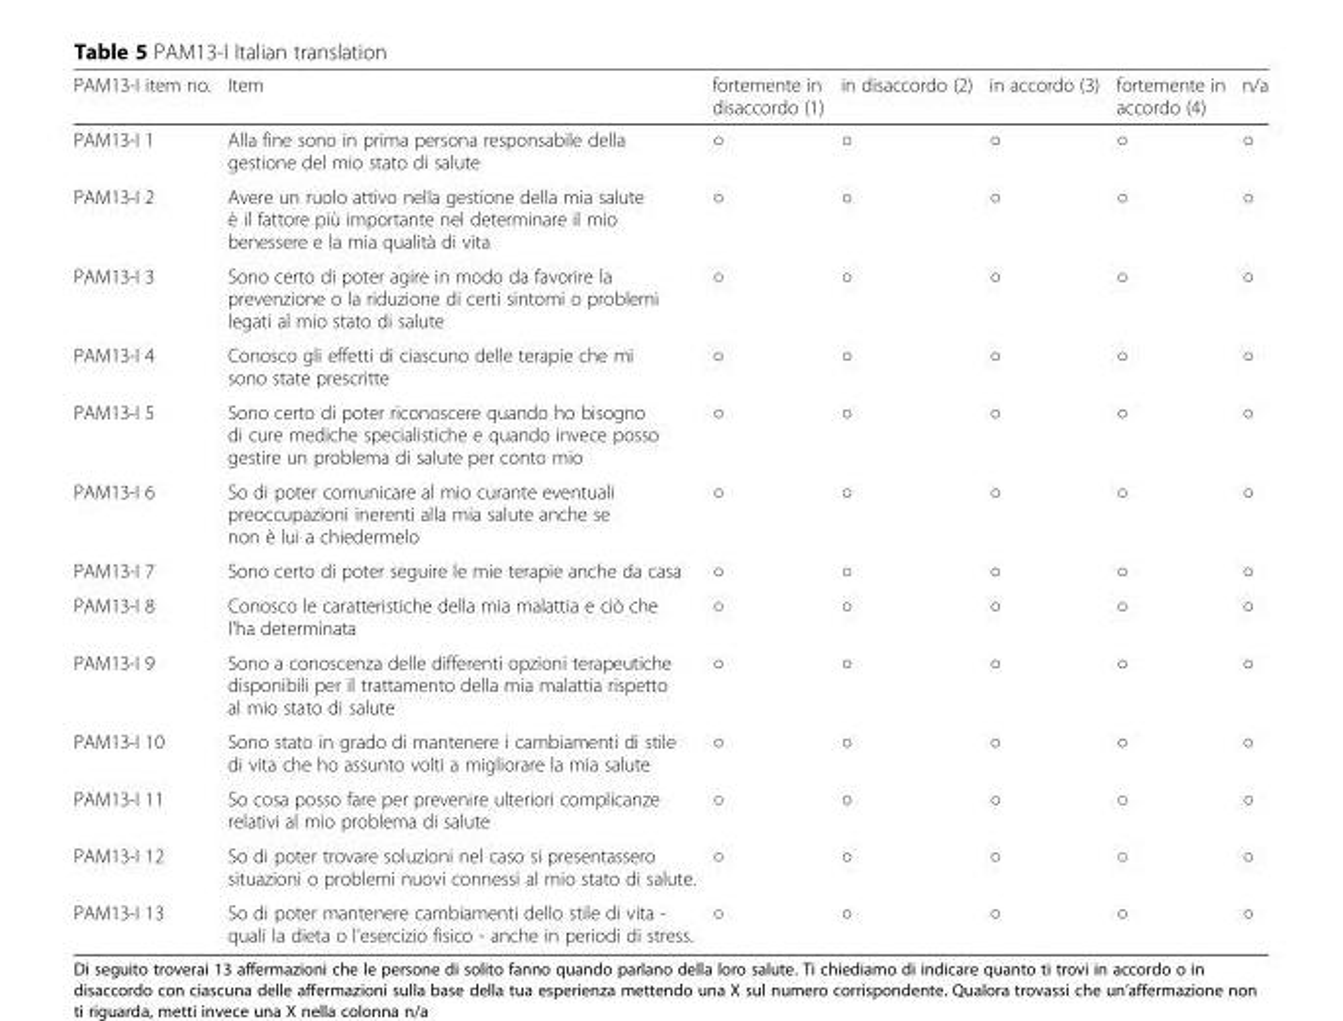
<table><thead><tr><td>PAM13-I item no.</td><td>Item</td><td>fortemente in disaccordo (1)</td><td>in disaccordo (2)</td><td>in accordo (3)</td><td>fortemente in accordo (4)</td><td>n/a</td></tr></thead><tbody><tr><td>PAM13-I 1</td><td>Alla fine sono in prima persona responsabile della gestione del mio stato di salute</td><td>○</td><td>○</td><td>○</td><td>○</td><td>○</td></tr><tr><td>PAM13-I 2</td><td>Avere un ruolo attivo nella gestione della mia salute è il fattore più importante nel determinare il mio benessere e la mia qualità di vita</td><td>○</td><td>○</td><td>○</td><td>○</td><td>○</td></tr><tr><td>PAM13-I 3</td><td>Sono certo di poter agire in modo da favorire la prevenzione o la riduzione di certi sintomi o problemi legati al mio stato di salute</td><td>○</td><td>○</td><td>○</td><td>○</td><td>○</td></tr><tr><td>PAM13-I 4</td><td>Conosco gli effetti di ciascuno delle terapie che mi sono state prescritte</td><td>○</td><td>○</td><td>○</td><td>○</td><td>○</td></tr><tr><td>PAM13-I 5</td><td>Sono certo di poter riconoscere quando ho bisogno di cure mediche specialistiche e quando invece posso gestire un problema di salute per conto mio</td><td>○</td><td>○</td><td>○</td><td>○</td><td>○</td></tr><tr><td>PAM13-I 6</td><td>So di poter comunicare al mio curante eventuali preoccupazioni inerenti alla mia salute anche se non è lui a chiedermelo</td><td>○</td><td>○</td><td>○</td><td>○</td><td>○</td></tr><tr><td>PAM13-I 7</td><td>Sono certo di poter seguire le mie terapie anche da casa</td><td>○</td><td>○</td><td>○</td><td>○</td><td>○</td></tr><tr><td>PAM13-I 8</td><td>Conosco le caratteristiche della mia malattia e ciò che l’ha determinata</td><td>○</td><td>○</td><td>○</td><td>○</td><td>○</td></tr><tr><td>PAM13-I 9</td><td>Sono a conoscenza delle differenti opzioni terapeutiche disponibili per il trattamento della mia malattia rispetto al mio stato di salute</td><td>○</td><td>○</td><td>○</td><td>○</td><td>○</td></tr><tr><td>PAM13-I 10</td><td>Sono stato in grado di mantenere i cambiamenti di stile di vita che ho assunto volti a migliorare la mia salute</td><td>○</td><td>○</td><td>○</td><td>○</td><td>○</td></tr><tr><td>PAM13-I 11</td><td>So cosa posso fare per prevenire ulteriori complicanze relativi al mio problema di salute</td><td>○</td><td>○</td><td>○</td><td>○</td><td>○</td></tr><tr><td>PAM13-I 12</td><td>So di poter trovare soluzioni nel caso si presentassero situazioni o problemi nuovi connessi al mio stato di salute.</td><td>○</td><td>○</td><td>○</td><td>○</td><td>○</td></tr><tr><td>PAM13-I 13</td><td>So di poter mantenere cambiamenti dello stile di vita - quali la dieta o l’esercizio fisico - anche in periodi di stress.</td><td>○</td><td>○</td><td>○</td><td>○</td><td>○</td></tr></tbody></table>